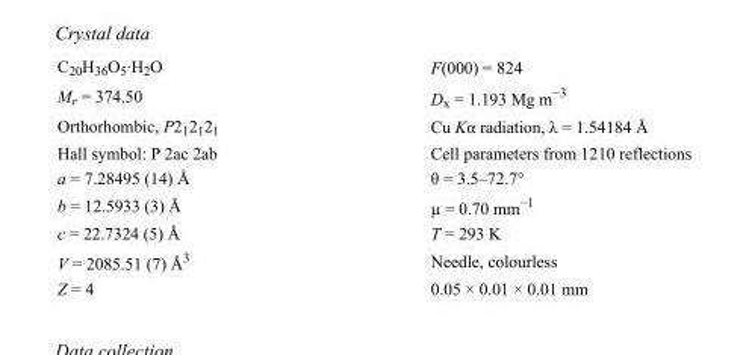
<table><tbody><tr><td>C<sub>20</sub>H<sub>36</sub>O<sub>5</sub>·H<sub>2</sub>O</td><td>F(000) = 824</td></tr><tr><td>M<sub>r</sub> = 374.50</td><td>D<sub>x</sub> = 1.193 Mg m<sup>−3</sup></td></tr><tr><td>Orthorhombic, P2<sub>1</sub>2<sub>1</sub>2<sub>1</sub></td><td>Cu Kα radiation, λ = 1.54184 Å</td></tr><tr><td>Hall symbol: P 2ac 2ab</td><td>Cell parameters from 1210 reflections</td></tr><tr><td>a = 7.28495 (14) Å</td><td>θ = 3.5–72.7°</td></tr><tr><td>b = 12.5933 (3) Å</td><td>µ = 0.70 mm<sup>−1</sup></td></tr><tr><td>c = 22.7324 (5) Å</td><td>T = 293 K</td></tr><tr><td>V = 2085.51 (7) Å<sup>3</sup></td><td>Needle, colourless</td></tr><tr><td>Z = 4</td><td>0.05 × 0.01 × 0.01 mm</td></tr></tbody></table>